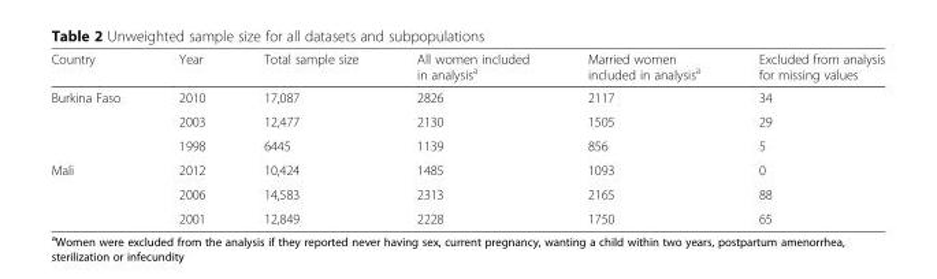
<table><thead><tr><td>Country</td><td>Year</td><td>Total sample size</td><td>All women included in analysis<sup>a</sup></td><td>Married women included in analysis<sup>a</sup></td><td>Excluded from analysis for missing values</td></tr></thead><tbody><tr><td rowspan="3">Burkina Faso</td><td>2010</td><td>17,087</td><td>2826</td><td>2117</td><td>34</td></tr><tr><td>2003</td><td>12,477</td><td>2130</td><td>1505</td><td>29</td></tr><tr><td>1998</td><td>6445</td><td>1139</td><td>856</td><td>5</td></tr><tr><td rowspan="3">Mali</td><td>2012</td><td>10,424</td><td>1485</td><td>1093</td><td>0</td></tr><tr><td>2006</td><td>14,583</td><td>2313</td><td>2165</td><td>88</td></tr><tr><td>2001</td><td>12,849</td><td>2228</td><td>1750</td><td>65</td></tr></tbody></table>